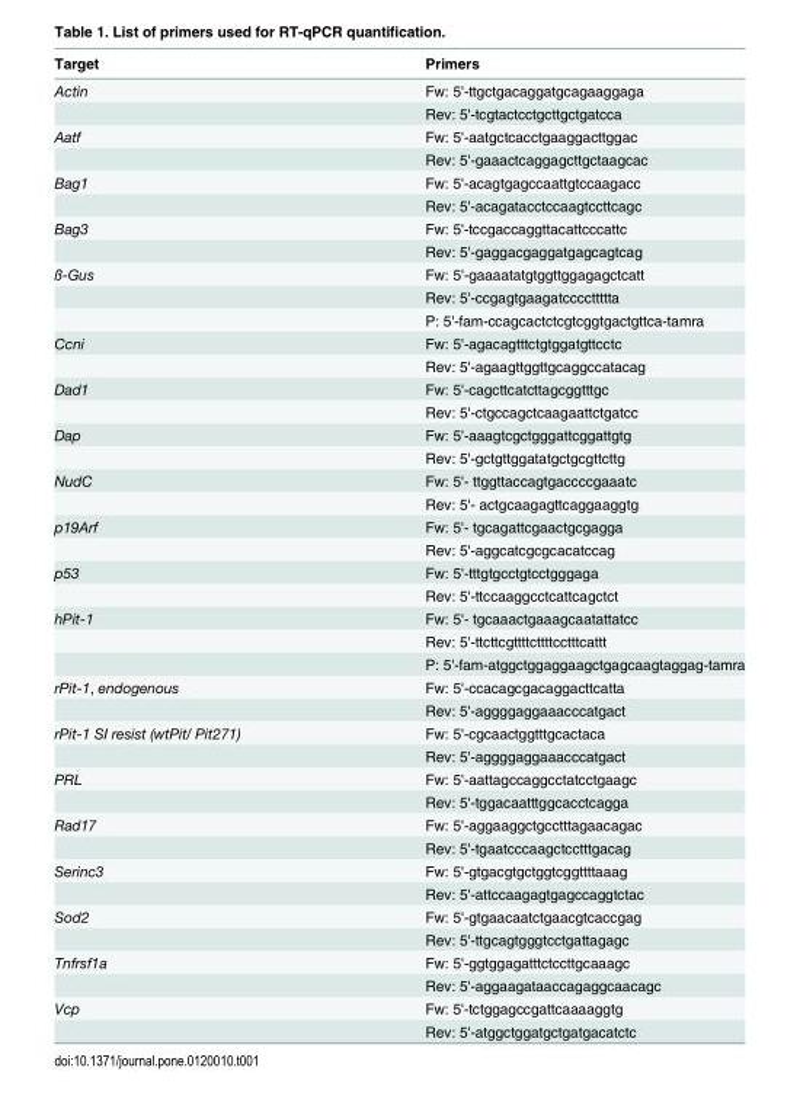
<table><thead><tr><td>Target</td><td>Primers</td></tr></thead><tbody><tr><td rowspan="2">Actin</td><td>Fw: 5&#x27;-ttgctgacaggatgcagaaggaga</td></tr><tr><td>Rev: 5&#x27;-tcgtactcctgcttgctgatcca</td></tr><tr><td rowspan="2">Aatf</td><td>Fw: 5&#x27;-aatgctcacctgaaggacttggac</td></tr><tr><td>Rev: 5&#x27;-gaaactcaggagcttgctaagcac</td></tr><tr><td rowspan="2">Bag1</td><td>Fw: 5&#x27;-acagtgagccaattgtccaagacc</td></tr><tr><td>Rev: 5&#x27;-acagatacctccaagtccttcagc</td></tr><tr><td rowspan="2">Bag3</td><td>Fw: 5&#x27;-tccgaccaggttacattcccattc</td></tr><tr><td>Rev: 5&#x27;-gaggacgaggatgagcagtcag</td></tr><tr><td rowspan="3">ß-Gus</td><td>Fw: 5&#x27;-gaaaatatgtggttggagagctcatt</td></tr><tr><td>Rev: 5&#x27;-ccgagtgaagatccccttttta</td></tr><tr><td>P: 5&#x27;-fam-ccagcactctcgtcggtgactgttca-tamra</td></tr><tr><td rowspan="2">Ccni</td><td>Fw: 5&#x27;-agacagtttctgtggatgttcctc</td></tr><tr><td>Rev: 5&#x27;-agaagttggttgcaggccatacag</td></tr><tr><td rowspan="2">Dad1</td><td>Fw: 5&#x27;-cagcttcatcttagcggtttgc</td></tr><tr><td>Rev: 5&#x27;-ctgccagctcaagaattctgatcc</td></tr><tr><td rowspan="2">Dap</td><td>Fw: 5&#x27;-aaagtcgctgggattcggattgtg</td></tr><tr><td>Rev: 5&#x27;-gctgttggatatgctgcgttcttg</td></tr><tr><td rowspan="2">NudC</td><td>Fw: 5&#x27;- ttggttaccagtgaccccgaaatc</td></tr><tr><td>Rev: 5&#x27;- actgcaagagttcaggaaggtg</td></tr><tr><td rowspan="2">p19Arf</td><td>Fw: 5&#x27;- tgcagattcgaactgcgagga</td></tr><tr><td>Rev: 5&#x27;-aggcatcgcgcacatccag</td></tr><tr><td rowspan="2">p53</td><td>Fw: 5&#x27;-tttgtgcctgtcctgggaga</td></tr><tr><td>Rev: 5&#x27;-ttccaaggcctcattcagctct</td></tr><tr><td rowspan="3">hPit-1</td><td>Fw: 5&#x27;- tgcaaactgaaagcaatattatcc</td></tr><tr><td>Rev: 5&#x27;-ttcttcgttttcttttcctttcattt</td></tr><tr><td>P: 5&#x27;-fam-atggctggaggaagctgagcaagtaggag-tamra</td></tr><tr><td rowspan="2">rPit-1, endogenous</td><td>Fw: 5&#x27;-ccacagcgacaggacttcatta</td></tr><tr><td>Rev: 5&#x27;-aggggaggaaacccatgact</td></tr><tr><td rowspan="2">rPit-1 SI resist (wtPit/ Pit271)</td><td>Fw: 5&#x27;-cgcaactggtttgcactaca</td></tr><tr><td>Rev: 5&#x27;-aggggaggaaacccatgact</td></tr><tr><td rowspan="2">PRL</td><td>Fw: 5&#x27;-aattagccaggcctatcctgaagc</td></tr><tr><td>Rev: 5&#x27;-tggacaatttggcacctcagga</td></tr><tr><td rowspan="2">Rad17</td><td>Fw: 5&#x27;-aggaaggctgcctttagaacagac</td></tr><tr><td>Rev: 5&#x27;-tgaatcccaagctcctttgacag</td></tr><tr><td rowspan="2">Serinc3</td><td>Fw: 5&#x27;-gtgacgtgctggtcggttttaaag</td></tr><tr><td>Rev: 5&#x27;-attccaagagtgagccaggtctac</td></tr><tr><td rowspan="2">Sod2</td><td>Fw: 5&#x27;-gtgaacaatctgaacgtcaccgag</td></tr><tr><td>Rev: 5&#x27;-ttgcagtgggtcctgattagagc</td></tr><tr><td rowspan="2">Tnfrsf1a</td><td>Fw: 5&#x27;-ggtggagatttctccttgcaaagc</td></tr><tr><td>Rev: 5&#x27;-aggaagataaccagaggcaacagc</td></tr><tr><td rowspan="2">Vcp</td><td>Fw: 5&#x27;-tctggagccgattcaaaaggtg</td></tr><tr><td>Rev: 5&#x27;-atggctggatgctgatgacatctc</td></tr></tbody></table>